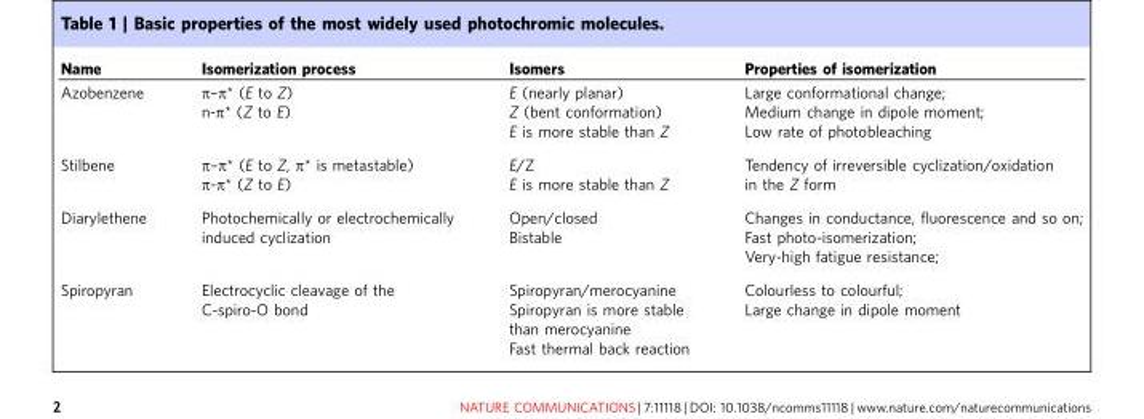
<table><thead><tr><td>Name</td><td>Isomerization process</td><td>Isomers</td><td>Properties of isomerization</td></tr></thead><tbody><tr><td>Azobenzene</td><td>π–π* (E to Z) n-π* (Z to E)</td><td>E (nearly planar) Z (bent conformation) E is more stable than Z</td><td>Large conformational change; Medium change in dipole moment; Low rate of photobleaching</td></tr><tr><td>Stilbene</td><td>π–π* (E to Z, π* is metastable) π-π* (Z to E)</td><td>E/Z E is more stable than Z</td><td>Tendency of irreversible cyclization/oxidation in the Z form</td></tr><tr><td>Diarylethene</td><td>Photochemically or electrochemically induced cyclization</td><td>Open/closed Bistable</td><td>Changes in conductance, fluorescence and so on; Fast photo-isomerization; Very-high fatigue resistance;</td></tr><tr><td>Spiropyran</td><td>Electrocyclic cleavage of the C-spiro-O bond</td><td>Spiropyran/merocyanine Spiropyran is more stable than merocyanine Fast thermal back reaction</td><td>Colourless to colourful; Large change in dipole moment</td></tr></tbody></table>